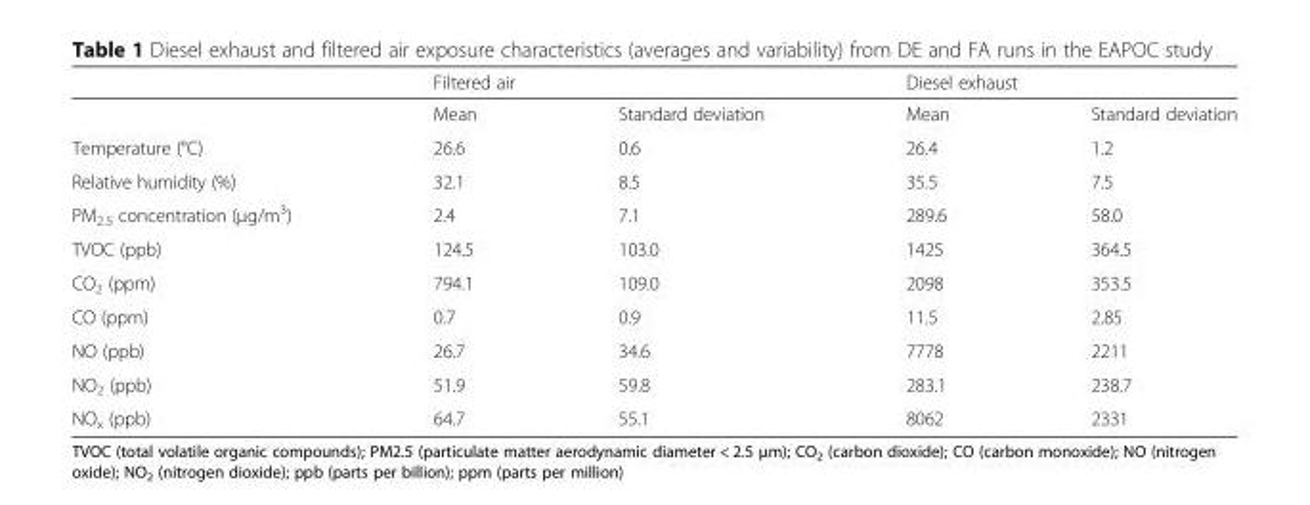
<table><thead><tr><td rowspan="2"></td><td colspan="2">Filtered air</td><td colspan="2">Diesel exhaust</td></tr><tr><td>Mean</td><td>Standard deviation</td><td>Mean</td><td>Standard deviation</td></tr></thead><tbody><tr><td>Temperature (°C)</td><td>26.6</td><td>0.6</td><td>26.4</td><td>1.2</td></tr><tr><td>Relative humidity (%)</td><td>32.1</td><td>8.5</td><td>35.5</td><td>7.5</td></tr><tr><td>PM<sub>2.5</sub> concentration (μg/m<sup>3</sup>)</td><td>2.4</td><td>7.1</td><td>289.6</td><td>58.0</td></tr><tr><td>TVOC (ppb)</td><td>124.5</td><td>103.0</td><td>1425</td><td>364.5</td></tr><tr><td>CO<sub>2</sub> (ppm)</td><td>794.1</td><td>109.0</td><td>2098</td><td>353.5</td></tr><tr><td>CO (ppm)</td><td>0.7</td><td>0.9</td><td>11.5</td><td>2.85</td></tr><tr><td>NO (ppb)</td><td>26.7</td><td>34.6</td><td>7778</td><td>2211</td></tr><tr><td>NO<sub>2</sub> (ppb)</td><td>51.9</td><td>59.8</td><td>283.1</td><td>238.7</td></tr><tr><td>NO<sub>x</sub> (ppb)</td><td>64.7</td><td>55.1</td><td>8062</td><td>2331</td></tr></tbody></table>